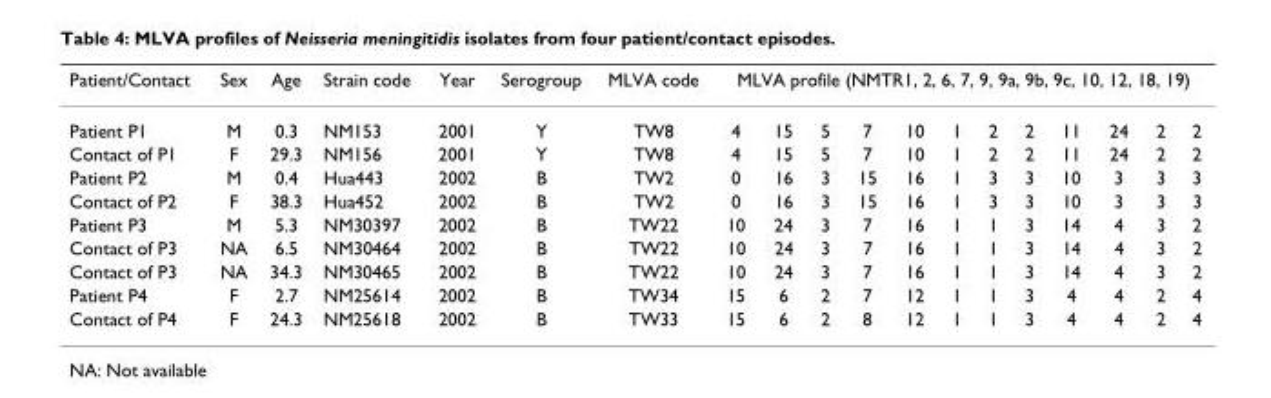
<table><thead><tr><td rowspan="2">Patient/Contact Patient P1</td><td rowspan="2">Sex M</td><td rowspan="2">Age 0.3</td><td rowspan="2">Strain code NM153</td><td rowspan="2">Year 2001</td><td rowspan="2">Serogroup Y</td><td rowspan="2">MLVA code TW8</td><td colspan="12">MLVA profile (NMTR1, 2, 6, 7, 9, 9a, 9b, 9c, 10, 12, 18, 19)</td></tr><tr><td>4</td><td>15</td><td>5</td><td>7</td><td>10</td><td>1</td><td>2</td><td>2</td><td>11</td><td>24</td><td>2</td><td>2</td></tr></thead><tbody><tr><td>Contact of P1</td><td>F</td><td>29.3</td><td>NM156</td><td>2001</td><td>Y</td><td>TW8</td><td>4</td><td>15</td><td>5</td><td>7</td><td>10</td><td>1</td><td>2</td><td>2</td><td>11</td><td>24</td><td>2</td><td>2</td></tr><tr><td>Patient P2</td><td>M</td><td>0.4</td><td>Hua443</td><td>2002</td><td>B</td><td>TW2</td><td>0</td><td>16</td><td>3</td><td>15</td><td>16</td><td>1</td><td>3</td><td>3</td><td>10</td><td>3</td><td>3</td><td>3</td></tr><tr><td>Contact of P2</td><td>F</td><td>38.3</td><td>Hua452</td><td>2002</td><td>B</td><td>TW2</td><td>0</td><td>16</td><td>3</td><td>15</td><td>16</td><td>1</td><td>3</td><td>3</td><td>10</td><td>3</td><td>3</td><td>3</td></tr><tr><td>Patient P3</td><td>M</td><td>5.3</td><td>NM30397</td><td>2002</td><td>B</td><td>TW22</td><td>10</td><td>24</td><td>3</td><td>7</td><td>16</td><td>1</td><td>1</td><td>3</td><td>14</td><td>4</td><td>3</td><td>2</td></tr><tr><td>Contact of P3</td><td>NA</td><td>6.5</td><td>NM30464</td><td>2002</td><td>B</td><td>TW22</td><td>10</td><td>24</td><td>3</td><td>7</td><td>16</td><td>1</td><td>1</td><td>3</td><td>14</td><td>4</td><td>3</td><td>2</td></tr><tr><td>Contact of P3</td><td>NA</td><td>34.3</td><td>NM30465</td><td>2002</td><td>B</td><td>TW22</td><td>10</td><td>24</td><td>3</td><td>7</td><td>16</td><td>1</td><td>1</td><td>3</td><td>14</td><td>4</td><td>3</td><td>2</td></tr><tr><td>Patient P4</td><td>F</td><td>2.7</td><td>NM25614</td><td>2002</td><td>B</td><td>TW34</td><td>15</td><td>6</td><td>2</td><td>7</td><td>12</td><td>1</td><td>1</td><td>3</td><td>4</td><td>4</td><td>2</td><td>4</td></tr><tr><td>Contact of P4</td><td>F</td><td>24.3</td><td>NM25618</td><td>2002</td><td>B</td><td>TW33</td><td>15</td><td>6</td><td>2</td><td>8</td><td>12</td><td>1</td><td>1</td><td>3</td><td>4</td><td>4</td><td>2</td><td>4</td></tr></tbody></table>